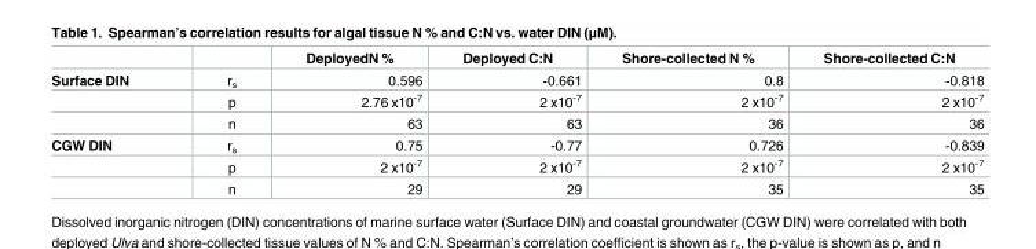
<table><thead><tr><td></td><td></td><td>DeployedN %</td><td>Deployed C:N</td><td>Shore-collected N %</td><td>Shore-collected C:N</td></tr></thead><tbody><tr><td rowspan="3">Surface DIN</td><td>r<sub>s</sub></td><td>0.596</td><td>-0.661</td><td>0.8</td><td>-0.818</td></tr><tr><td>p</td><td>2.76 x10<sup>-7</sup></td><td>2 x10<sup>-7</sup></td><td>2 x10<sup>-7</sup></td><td>2 x10<sup>-7</sup></td></tr><tr><td>n</td><td>63</td><td>63</td><td>36</td><td>36</td></tr><tr><td rowspan="3">CGW DIN</td><td>r<sub>s</sub></td><td>0.75</td><td>-0.77</td><td>0.726</td><td>-0.839</td></tr><tr><td>p</td><td>2 x10<sup>-7</sup></td><td>2 x10<sup>-7</sup></td><td>2 x10<sup>-7</sup></td><td>2 x10<sup>-7</sup></td></tr><tr><td>n</td><td>29</td><td>29</td><td>35</td><td>35</td></tr></tbody></table>